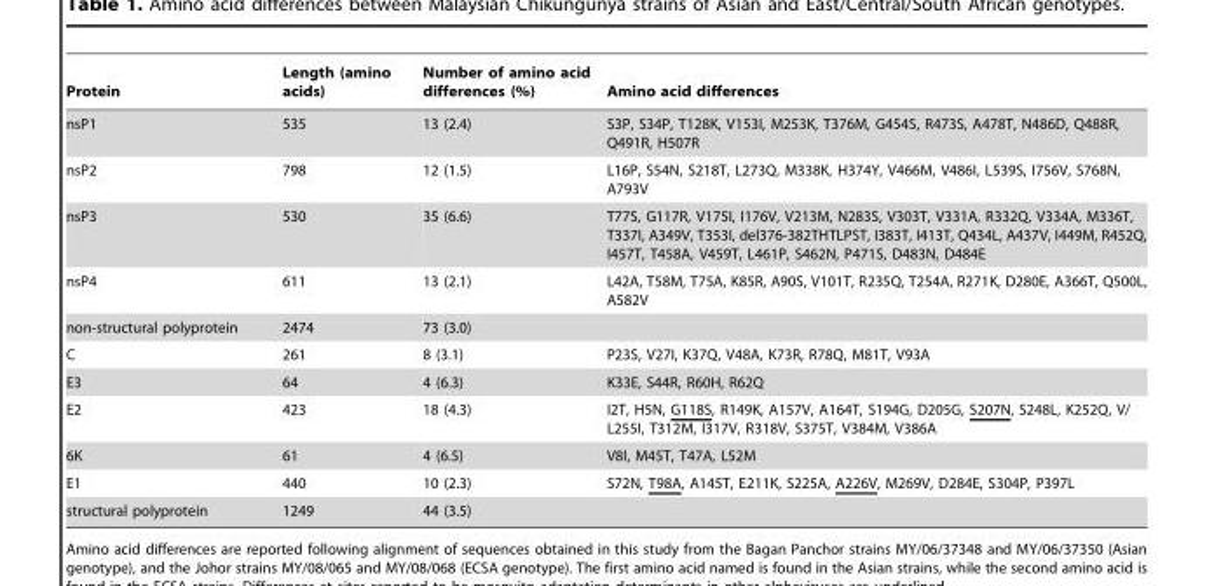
<table><thead><tr><td>Protein</td><td>Length (amino acids)</td><td>Number of amino acid differences (%)</td><td>Amino acid differences</td></tr></thead><tbody><tr><td>nsP1</td><td>535</td><td>13 (2.4)</td><td>S3P, S34P, T128K, V153I, M253K, T376M, G454S, R473S, A478T, N486D, Q488R, Q491R, H507R</td></tr><tr><td>nsP2</td><td>798</td><td>12 (1.5)</td><td>L16P, S54N, S218T, L273Q, M338K, H374Y, V466M, V486I, L539S, I756V, S768N, A793V</td></tr><tr><td>nsP3</td><td>530</td><td>35 (6.6)</td><td>T77S, G117R, V175I, I176V, V213M, N283S, V303T, V331A, R332Q, V334A, M336T, T337I, A349V, T353I, del376-382THTLPST, I383T, I413T, Q434L, A437V, I449M, R452Q, I457T, T458A, V459T, L461P, S462N, P471S, D483N, D484E</td></tr><tr><td>nsP4</td><td>611</td><td>13 (2.1)</td><td>L42A, T58M, T75A, K85R, A90S, V101T, R235Q, T254A, R271K, D280E, A366T, Q500L, A582V</td></tr><tr><td>non-structural polyprotein</td><td>2474</td><td>73 (3.0)</td><td></td></tr><tr><td>C</td><td>261</td><td>8 (3.1)</td><td>P23S, V27I, K37Q, V48A, K73R, R78Q, M81T, V93A</td></tr><tr><td>E3</td><td>64</td><td>4 (6.3)</td><td>K33E, S44R, R60H, R62Q</td></tr><tr><td>E2</td><td>423</td><td>18 (4.3)</td><td>I2T, H5N, G118S, R149K, A157V, A164T, S194G, D205G, S207N, S248L, K252Q, V/ L255I, T312M, I317V, R318V, S375T, V384M, V386A</td></tr><tr><td>6K</td><td>61</td><td>4 (6.5)</td><td>V8I, M45T, T47A, L52M</td></tr><tr><td>E1</td><td>440</td><td>10 (2.3)</td><td>S72N, T98A, A145T, E211K, S225A, A226V, M269V, D284E, S304P, P397L</td></tr><tr><td>structural polyprotein</td><td>1249</td><td>44 (3.5)</td><td></td></tr></tbody></table>